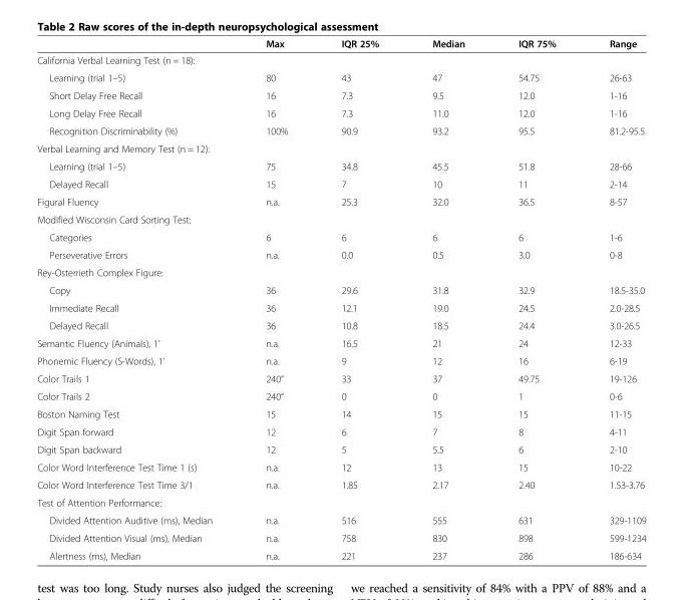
<table><thead><tr><td></td><td>Max</td><td>IQR 25%</td><td>Median</td><td>IQR 75%</td><td>Range</td></tr></thead><tbody><tr><td colspan="6">California Verbal Learning Test (n = 18):</td></tr><tr><td>Learning (trial 1–5)</td><td>80</td><td>43</td><td>47</td><td>54.75</td><td>26-63</td></tr><tr><td>Short Delay Free Recall</td><td>16</td><td>7.3</td><td>9.5</td><td>12.0</td><td>1-16</td></tr><tr><td>Long Delay Free Recall</td><td>16</td><td>7.3</td><td>11.0</td><td>12.0</td><td>1-16</td></tr><tr><td>Recognition Discriminability (%)</td><td>100%</td><td>90.9</td><td>93.2</td><td>95.5</td><td>81.2-95.5</td></tr><tr><td colspan="6">Verbal Learning and Memory Test (n = 12):</td></tr><tr><td>Learning (trial 1–5)</td><td>75</td><td>34.8</td><td>45.5</td><td>51.8</td><td>28-66</td></tr><tr><td>Delayed Recall</td><td>15</td><td>7</td><td>10</td><td>11</td><td>2-14</td></tr><tr><td>Figural Fluency</td><td>n.a.</td><td>25.3</td><td>32.0</td><td>36.5</td><td>8-57</td></tr><tr><td colspan="6">Modified Wisconsin Card Sorting Test:</td></tr><tr><td>Categories</td><td>6</td><td>6</td><td>6</td><td>6</td><td>1-6</td></tr><tr><td>Perseverative Errors</td><td>n.a.</td><td>0.0</td><td>0.5</td><td>3.0</td><td>0-8</td></tr><tr><td colspan="6">Rey-Osterrieth Complex Figure:</td></tr><tr><td>Copy</td><td>36</td><td>29.6</td><td>31.8</td><td>32.9</td><td>18.5-35.0</td></tr><tr><td>Immediate Recall</td><td>36</td><td>12.1</td><td>19.0</td><td>24.5</td><td>2.0-28.5</td></tr><tr><td>Delayed Recall</td><td>36</td><td>10.8</td><td>18.5</td><td>24.4</td><td>3.0-26.5</td></tr><tr><td>Semantic Fluency (Animals), 1’</td><td>n.a.</td><td>16.5</td><td>21</td><td>24</td><td>12-33</td></tr><tr><td>Phonemic Fluency (S-Words), 1’</td><td>n.a.</td><td>9</td><td>12</td><td>16</td><td>6-19</td></tr><tr><td>Color Trails 1</td><td>240“</td><td>33</td><td>37</td><td>49.75</td><td>19-126</td></tr><tr><td>Color Trails 2</td><td>240“</td><td>0</td><td>0</td><td>1</td><td>0-6</td></tr><tr><td>Boston Naming Test</td><td>15</td><td>14</td><td>15</td><td>15</td><td>11-15</td></tr><tr><td>Digit Span forward</td><td>12</td><td>6</td><td>7</td><td>8</td><td>4-11</td></tr><tr><td>Digit Span backward</td><td>12</td><td>5</td><td>5.5</td><td>6</td><td>2-10</td></tr><tr><td>Color Word Interference Test Time 1 (s)</td><td>n.a.</td><td>12</td><td>13</td><td>15</td><td>10-22</td></tr><tr><td>Color Word Interference Test Time 3/1</td><td>n.a.</td><td>1.85</td><td>2.17</td><td>2.40</td><td>1.53-3.76</td></tr><tr><td colspan="6">Test of Attention Performance:</td></tr><tr><td>Divided Attention Auditive (ms), Median</td><td>n.a.</td><td>516</td><td>555</td><td>631</td><td>329-1109</td></tr><tr><td>Divided Attention Visual (ms), Median</td><td>n.a.</td><td>758</td><td>830</td><td>898</td><td>599-1234</td></tr><tr><td>Alertness (ms), Median</td><td>n.a.</td><td>221</td><td>237</td><td>286</td><td>186-634</td></tr></tbody></table>